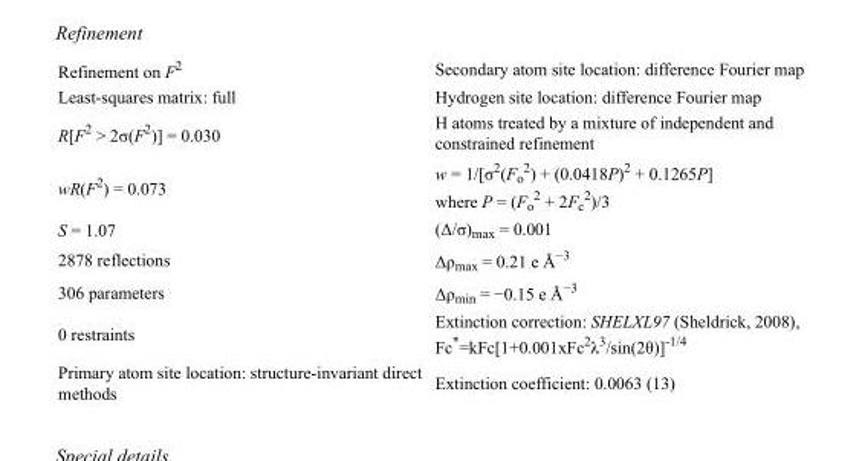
<table><tbody><tr><td>Refinement on F<sup>2</sup></td><td>Secondary atom site location: difference Fourier map</td></tr><tr><td>Least-squares matrix: full</td><td>Hydrogen site location: difference Fourier map</td></tr><tr><td>R[F<sup>2</sup> &gt; 2σ(F<sup>2</sup>)] = 0.030</td><td>H atoms treated by a mixture of independent and constrained refinement</td></tr><tr><td>wR(F<sup>2</sup>) = 0.073</td><td>w = 1/[σ<sup>2</sup>(F<sub>o</sub> <sup>2</sup>) + (0.0418P)<sup>2</sup> + 0.1265P] where P = (F<sub>o</sub> <sup>2</sup> + 2F<sub>c</sub> <sup>2</sup>)/3</td></tr><tr><td>S = 1.07</td><td>(Δ/σ)<sub>max</sub> = 0.001</td></tr><tr><td>2878 reflections</td><td>Δρ<sub>max</sub> = 0.21 e Å<sup>−3</sup></td></tr><tr><td>306 parameters</td><td>Δρ<sub>min</sub> = −0.15 e Å<sup>−3</sup></td></tr><tr><td>0 restraints</td><td>Extinction correction: SHELXL97 (Sheldrick, 2008), Fc*=kFc[1+0.001xFc<sup>2</sup>λ<sup>3</sup>/sin(2θ)]<sup>-1/4</sup></td></tr><tr><td>Primary atom site location: structure-invariant direct methods</td><td>Extinction coefficient: 0.0063 (13)</td></tr></tbody></table>